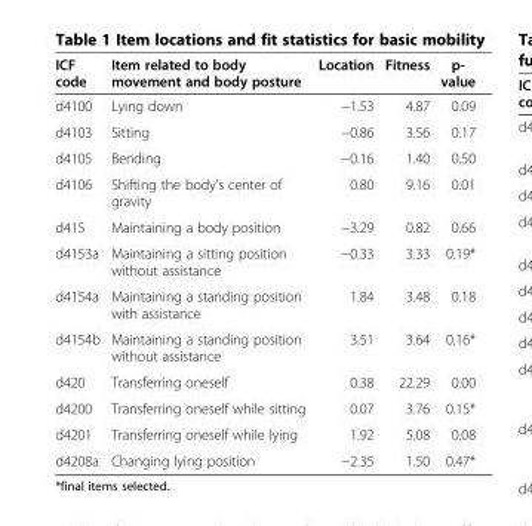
<table><thead><tr><td>ICF code</td><td>Item related to body movement and body posture</td><td>Location</td><td>Fitness</td><td>p- value</td></tr></thead><tbody><tr><td>d4100</td><td>Lying down</td><td>−1.53</td><td>4.87</td><td>0.09</td></tr><tr><td>d4103</td><td>Sitting</td><td>−0.86</td><td>3.56</td><td>0.17</td></tr><tr><td>d4105</td><td>Bending</td><td>−0.16</td><td>1.40</td><td>0.50</td></tr><tr><td>d4106</td><td>Shifting the body&#x27;s center of gravity</td><td>0.80</td><td>9.16</td><td>0.01</td></tr><tr><td>d415</td><td>Maintaining a body position</td><td>−3.29</td><td>0.82</td><td>0.66</td></tr><tr><td>d4153a</td><td>Maintaining a sitting position without assistance</td><td>−0.33</td><td>3.33</td><td>0.19*</td></tr><tr><td>d4154a</td><td>Maintaining a standing position with assistance</td><td>1.84</td><td>3.48</td><td>0.18</td></tr><tr><td>d4154b</td><td>Maintaining a standing position without assistance</td><td>3.51</td><td>3.64</td><td>0.16*</td></tr><tr><td>d420</td><td>Transferring oneself</td><td>0.38</td><td>22.29</td><td>0.00</td></tr><tr><td>d4200</td><td>Transferring oneself while sitting</td><td>0.07</td><td>3.76</td><td>0.15*</td></tr><tr><td>d4201</td><td>Transferring oneself while lying</td><td>1.92</td><td>5.08</td><td>0.08</td></tr><tr><td>d4208a</td><td>Changing lying position</td><td>−2.35</td><td>1.50</td><td>0.47*</td></tr></tbody></table>